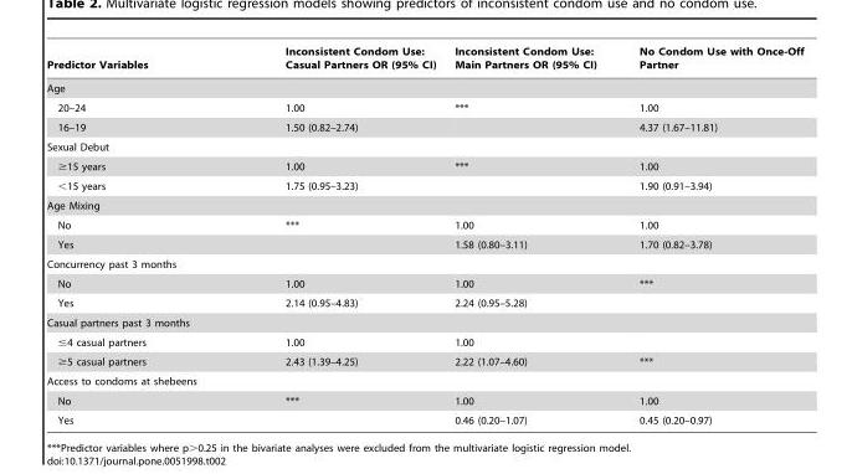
<table><thead><tr><td>Predictor Variables</td><td>Inconsistent Condom Use: Casual Partners OR (95% CI)</td><td>Inconsistent Condom Use: Main Partners OR (95% CI)</td><td>No Condom Use with Once-Off Partner</td></tr></thead><tbody><tr><td colspan="4">Age</td></tr><tr><td>20–24</td><td>1.00</td><td>***</td><td>1.00</td></tr><tr><td>16–19</td><td>1.50 (0.82–2.74)</td><td></td><td>4.37 (1.67–11.81)</td></tr><tr><td colspan="4">Sexual Debut</td></tr><tr><td>≥15 years</td><td>1.00</td><td>***</td><td>1.00</td></tr><tr><td>&lt;15 years</td><td>1.75 (0.95–3.23)</td><td></td><td>1.90 (0.91–3.94)</td></tr><tr><td colspan="4">Age Mixing</td></tr><tr><td>No</td><td>***</td><td>1.00</td><td>1.00</td></tr><tr><td>Yes</td><td></td><td>1.58 (0.80–3.11)</td><td>1.70 (0.82–3.78)</td></tr><tr><td colspan="4">Concurrency past 3 months</td></tr><tr><td>No</td><td>1.00</td><td>1.00</td><td>***</td></tr><tr><td>Yes</td><td>2.14 (0.95–4.83)</td><td>2.24 (0.95–5.28)</td><td></td></tr><tr><td colspan="4">Casual partners past 3 months</td></tr><tr><td>≤4 casual partners</td><td>1.00</td><td>1.00</td><td></td></tr><tr><td>≥5 casual partners</td><td>2.43 (1.39–4.25)</td><td>2.22 (1.07–4.60)</td><td>***</td></tr><tr><td colspan="4">Access to condoms at shebeens</td></tr><tr><td>No</td><td>***</td><td>1.00</td><td>1.00</td></tr><tr><td>Yes</td><td></td><td>0.46 (0.20–1.07)</td><td>0.45 (0.20–0.97)</td></tr></tbody></table>